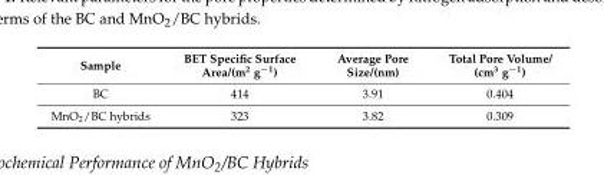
<table><thead><tr><td>Sample</td><td>BET Specific Surface Area/(m<sup>2</sup> g<sup>−1</sup>)</td><td>Average Pore Size/(nm)</td><td>Total Pore Volume/ (cm<sup>3</sup> g<sup>−1</sup>)</td></tr></thead><tbody><tr><td>BC</td><td>414</td><td>3.91</td><td>0.404</td></tr><tr><td>MnO<sub>2</sub>/BC hybrids</td><td>323</td><td>3.82</td><td>0.309</td></tr></tbody></table>